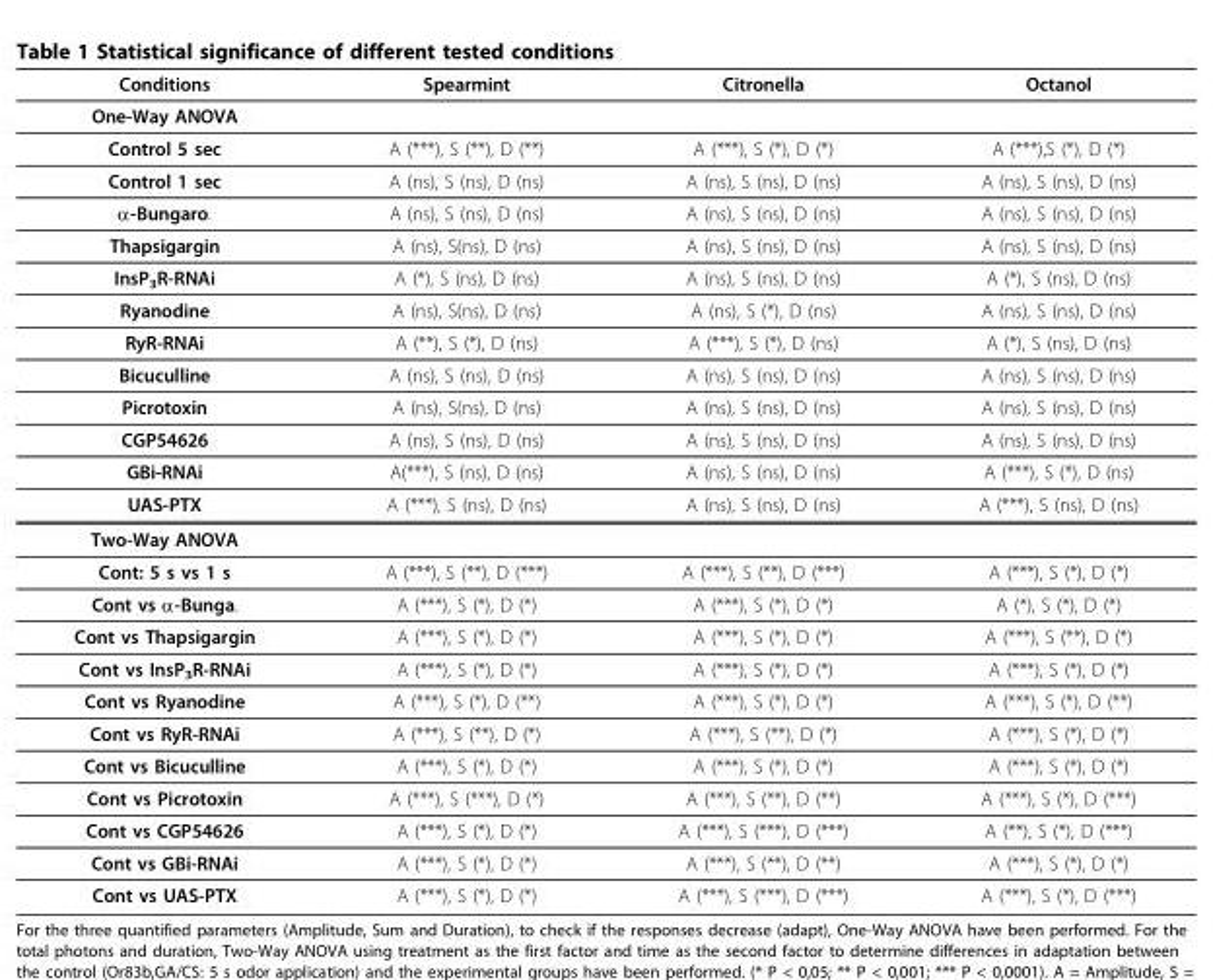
<table><thead><tr><td>Conditions</td><td>Spearmint</td><td>Citronella</td><td>Octanol</td></tr></thead><tbody><tr><td colspan="4">One-Way ANOVA</td></tr><tr><td>Control 5 sec</td><td>A (***), S (**), D (**)</td><td>A (***), S (*), D (*)</td><td>A (***),S (*), D (*)</td></tr><tr><td>Control 1 sec</td><td>A (ns), S (ns), D (ns)</td><td>A (ns), S (ns), D (ns)</td><td>A (ns), S (ns), D (ns)</td></tr><tr><td>α-Bungaro.</td><td>A (ns), S (ns), D (ns)</td><td>A (ns), S (ns), D (ns)</td><td>A (ns), S (ns), D (ns)</td></tr><tr><td>Thapsigargin</td><td>A (ns), S(ns), D (ns)</td><td>A (ns), S (ns), D (ns)</td><td>A (ns), S (ns), D (ns)</td></tr><tr><td>InsP<sub>3</sub>R-RNAi</td><td>A (*), S (ns), D (ns)</td><td>A (ns), S (ns), D (ns)</td><td>A (*), S (ns), D (ns)</td></tr><tr><td>Ryanodine</td><td>A (ns), S(ns), D (ns)</td><td>A (ns), S (*), D (ns)</td><td>A (ns), S (ns), D (ns)</td></tr><tr><td>RyR-RNAi</td><td>A (**), S (*), D (ns)</td><td>A (***), S (*), D (ns)</td><td>A (*), S (ns), D (ns)</td></tr><tr><td>Bicuculline</td><td>A (ns), S (ns), D (ns)</td><td>A (ns), S (ns), D (ns)</td><td>A (ns), S (ns), D (ns)</td></tr><tr><td>Picrotoxin</td><td>A (ns), S(ns), D (ns)</td><td>A (ns), S (ns), D (ns)</td><td>A (ns), S (ns), D (ns)</td></tr><tr><td>CGP54626</td><td>A (ns), S (ns), D (ns)</td><td>A (ns), S (ns), D (ns)</td><td>A (ns), S (ns), D (ns)</td></tr><tr><td>GBi-RNAi</td><td>A(***), S (ns), D (ns)</td><td>A (ns), S (ns), D (ns)</td><td>A (***), S (*), D (ns)</td></tr><tr><td>UAS-PTX</td><td>A (***), S (ns), D (ns)</td><td>A (ns), S (ns), D (ns)</td><td>A (***), S (ns), D (ns)</td></tr><tr><td colspan="4">Two-Way ANOVA</td></tr><tr><td>Cont: 5 s vs 1 s</td><td>A (***), S (**), D (***)</td><td>A (***), S (**), D (***)</td><td>A (***), S (*), D (*)</td></tr><tr><td>Cont vs α-Bunga.</td><td>A (***), S (*), D (*)</td><td>A (***), S (*), D (*)</td><td>A (*), S (*), D (*)</td></tr><tr><td>Cont vs Thapsigargin</td><td>A (***), S (*), D (*)</td><td>A (***), S (*), D (*)</td><td>A (***), S (**), D (*)</td></tr><tr><td>Cont vs InsP3R-RNAi</td><td>A (***), S (*), D (*)</td><td>A (***), S (*), D (*)</td><td>A (***), S (*), D (*)</td></tr><tr><td>Cont vs Ryanodine</td><td>A (***), S (*), D (**)</td><td>A (***), S (*), D (*)</td><td>A (***), S (*), D (**)</td></tr><tr><td>Cont vs RyR-RNAi</td><td>A (***), S (**), D (*)</td><td>A (***), S (**), D (*)</td><td>A (***), S (*), D (*)</td></tr><tr><td>Cont vs Bicuculline</td><td>A (***), S (*), D (*)</td><td>A (***), S (*), D (*)</td><td>A (***), S (*), D (*)</td></tr><tr><td>Cont vs Picrotoxin</td><td>A (***), S (***), D (*)</td><td>A (***), S (**), D (**)</td><td>A (***), S (*), D (***)</td></tr><tr><td>Cont vs CGP54626</td><td>A (***), S (*), D (*)</td><td>A (***), S (***), D (***)</td><td>A (**), S (*), D (***)</td></tr><tr><td>Cont vs GBi-RNAi</td><td>A (***), S (*), D (*)</td><td>A (***), S (**), D (**)</td><td>A (***), S (*), D (*)</td></tr><tr><td>Cont vs UAS-PTX</td><td>A (***), S (*), D (*)</td><td>A (***), S (***), D (***)</td><td>A (***), S (*), D (***)</td></tr></tbody></table>